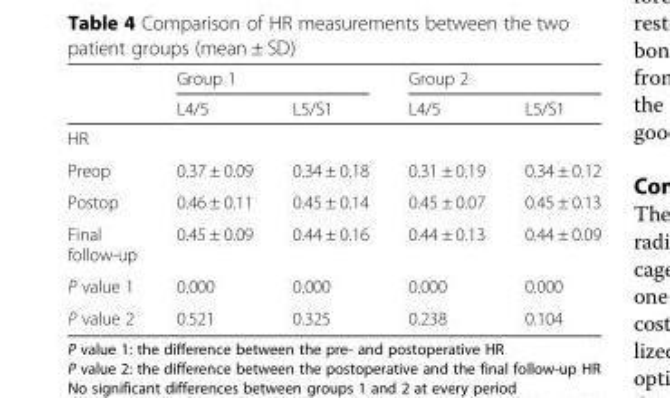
<table><thead><tr><td rowspan="2"></td><td colspan="2">Group 1</td><td colspan="2">Group 2</td></tr><tr><td>L4/5</td><td>L5/S1</td><td>L4/5</td><td>L5/S1</td></tr></thead><tbody><tr><td colspan="5">HR</td></tr><tr><td>Preop</td><td>0.37 ± 0.09</td><td>0.34 ± 0.18</td><td>0.31 ± 0.19</td><td>0.34 ± 0.12</td></tr><tr><td>Postop</td><td>0.46 ± 0.11</td><td>0.45 ± 0.14</td><td>0.45 ± 0.07</td><td>0.45 ± 0.13</td></tr><tr><td>Final follow-up</td><td>0.45 ± 0.09</td><td>0.44 ± 0.16</td><td>0.44 ± 0.13</td><td>0.44 ± 0.09</td></tr><tr><td>P value 1</td><td>0.000</td><td>0.000</td><td>0.000</td><td>0.000</td></tr><tr><td>P value 2</td><td>0.521</td><td>0.325</td><td>0.238</td><td>0.104</td></tr></tbody></table>